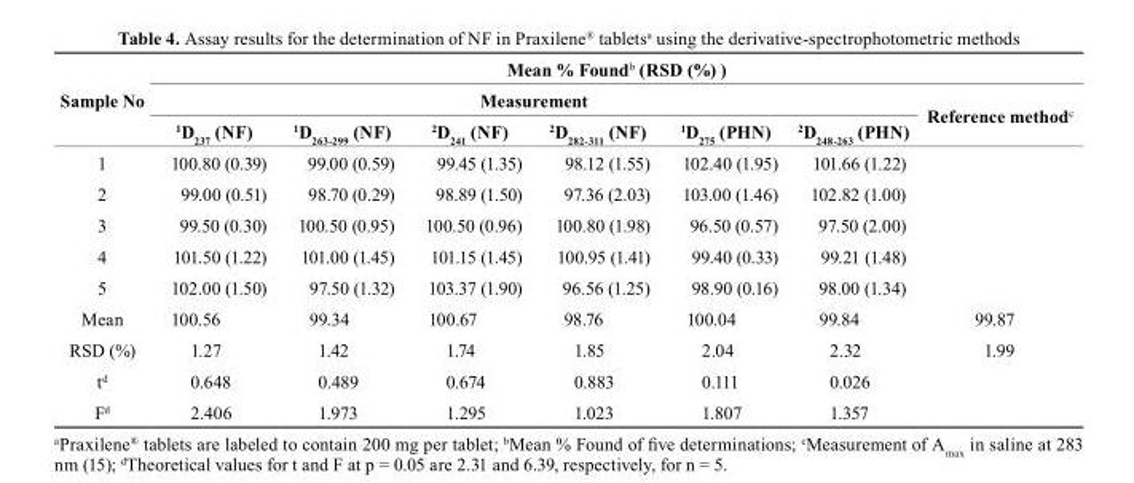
<table><thead><tr><td rowspan="3">Sample No</td><td colspan="7">Mean % Found<sup>b</sup> (RSD (%) )</td></tr><tr><td colspan="6">Measurement</td><td rowspan="2">reference method<sup>c</sup></td></tr><tr><td><sup>1</sup>D<sub>237</sub> (NF)</td><td><sup>1</sup>D<sub>263-299</sub> (NF)</td><td><sup>2</sup>D<sub>241</sub> (NF)</td><td><sup>2</sup>D<sub>282-311</sub> (NF)</td><td><sup>1</sup>D<sub>275</sub> (PHN)</td><td><sup>2</sup>D<sub>248-263</sub> (PHN)</td></tr></thead><tbody><tr><td>1</td><td>100.80 (0.39)</td><td>99.00 (0.59)</td><td>99.45 (1.35)</td><td>98.12 (1.55)</td><td>102.40 (1.95)</td><td>101.66 (1.22)</td><td rowspan="5"></td></tr><tr><td>2</td><td>99.00 (0.51)</td><td>98.70 (0.29)</td><td>98.89 (1.50)</td><td>97.36 (2.03)</td><td>103.00 (1.46)</td><td>102.82 (1.00)</td></tr><tr><td>3</td><td>99.50 (0.30)</td><td>100.50 (0.95)</td><td>100.50 (0.96)</td><td>100.80 (1.98)</td><td>96.50 (0.57)</td><td>97.50 (2.00)</td></tr><tr><td>4</td><td>101.50 (1.22)</td><td>101.00 (1.45)</td><td>101.15 (1.45)</td><td>100.95 (1.41)</td><td>99.40 (0.33)</td><td>99.21 (1.48)</td></tr><tr><td>5</td><td>102.00 (1.50)</td><td>97.50 (1.32)</td><td>103.37 (1.90)</td><td>96.56 (1.25)</td><td>98.90 (0.16)</td><td>98.00 (1.34)</td></tr><tr><td>Mean</td><td>100.56</td><td>99.34</td><td>100.67</td><td>98.76</td><td>100.04</td><td>99.84</td><td>99.87</td></tr><tr><td>RSD (%)</td><td>1.27</td><td>1.42</td><td>1.74</td><td>1.85</td><td>2.04</td><td>2.32</td><td>1.99</td></tr><tr><td>t<sup>d</sup></td><td>0.648</td><td>0.489</td><td>0.674</td><td>0.883</td><td>0.111</td><td>0.026</td><td></td></tr><tr><td>F<sup>d</sup></td><td>2.406</td><td>1.973</td><td>1.295</td><td>1.023</td><td>1.807</td><td>1.357</td><td></td></tr></tbody></table>